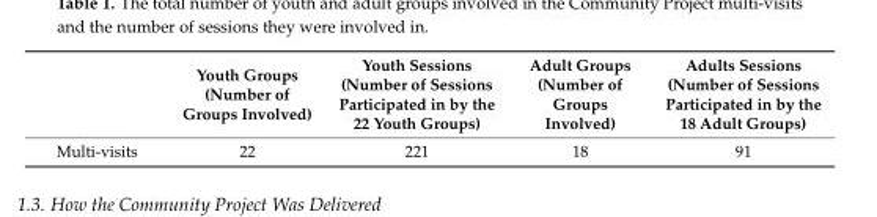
<table><thead><tr><td></td><td>Youth Groups (Number of Groups Involved)</td><td>Youth Sessions (Number of Sessions Participated in by the 22 Youth Groups)</td><td>Adult Groups (Number of Groups Involved)</td><td>Adults Sessions (Number of Sessions Participated in by the 18 Adult Groups)</td></tr></thead><tbody><tr><td>Multi-visits</td><td>22</td><td>221</td><td>18</td><td>91</td></tr></tbody></table>